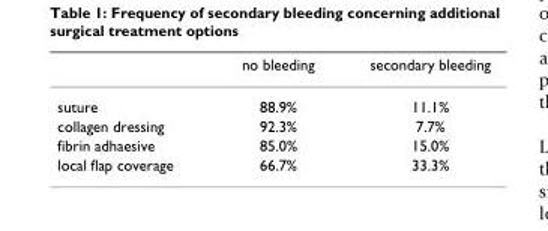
<table><thead><tr><td></td><td>no bleeding</td><td>secondary bleeding</td></tr></thead><tbody><tr><td>suture</td><td>88.9%</td><td>11.1%</td></tr><tr><td>collagen dressing</td><td>92.3%</td><td>7.7%</td></tr><tr><td>fibrin adhaesive</td><td>85.0%</td><td>15.0%</td></tr><tr><td>local flap coverage</td><td>66.7%</td><td>33.3%</td></tr></tbody></table>